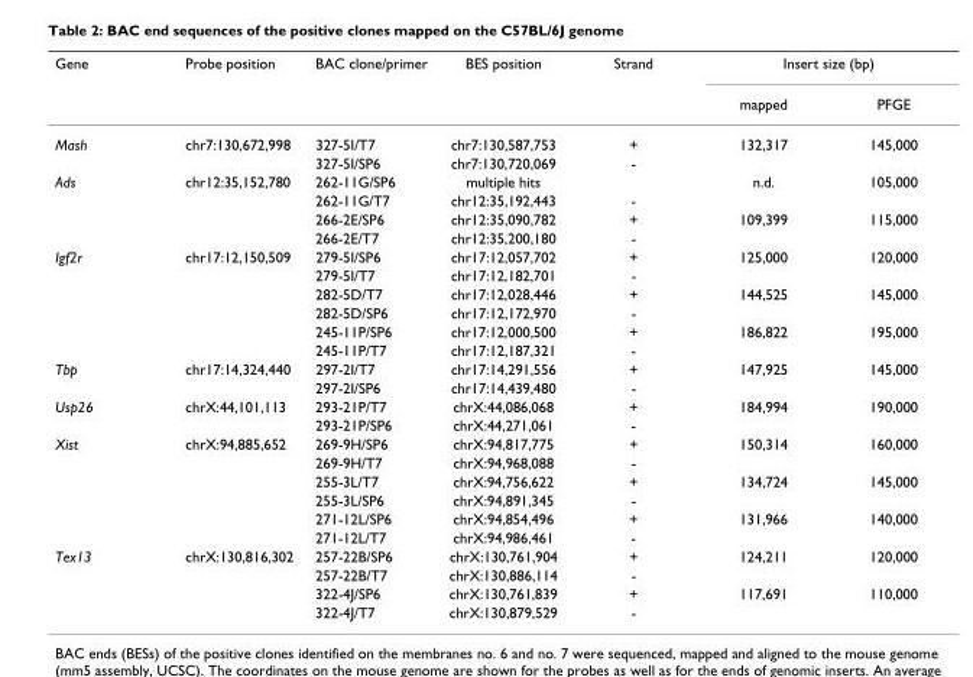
<table><thead><tr><td rowspan="2">Gene</td><td rowspan="2">Probe position</td><td rowspan="2">BAC clone/primer</td><td rowspan="2">BES position</td><td rowspan="2">Strand</td><td colspan="2">Insert size (bp)</td></tr><tr><td>mapped</td><td>PFGE</td></tr></thead><tbody><tr><td rowspan="2">Mash</td><td>chr7:130,672,998</td><td>327-5I/T7</td><td>chr7:130,587,753</td><td>+</td><td>132,317</td><td>145,000</td></tr><tr><td></td><td>327-5I/SP6</td><td>chr7:130,720,069</td><td>-</td><td></td><td></td></tr><tr><td rowspan="4">Ads</td><td>chr12:35,152,780</td><td>262-11G/SP6</td><td>multiple hits</td><td></td><td>n.d.</td><td>105,000</td></tr><tr><td></td><td>262-11G/T7</td><td>chr12:35,192,443</td><td>-</td><td></td><td></td></tr><tr><td></td><td>266-2E/SP6</td><td>chr12:35,090,782</td><td>+</td><td>109,399</td><td>115,000</td></tr><tr><td></td><td>266-2E/T7</td><td>chr12:35,200,180</td><td>-</td><td></td><td></td></tr><tr><td rowspan="6">Igf2r</td><td>chr17:12,150,509</td><td>279-5I/SP6</td><td>chr17:12,057,702</td><td>+</td><td>125,000</td><td>120,000</td></tr><tr><td></td><td>279-5I/T7</td><td>chr17:12,182,701</td><td>-</td><td></td><td></td></tr><tr><td></td><td>282-5D/T7</td><td>chr17:12,028,446</td><td>+</td><td>144,525</td><td>145,000</td></tr><tr><td></td><td>282-5D/SP6</td><td>chr17:12,172,970</td><td>-</td><td></td><td></td></tr><tr><td></td><td>245-11P/SP6</td><td>chr17:12,000,500</td><td>+</td><td>186,822</td><td>195,000</td></tr><tr><td></td><td>245-11P/T7</td><td>chr17:12,187,321</td><td>-</td><td></td><td></td></tr><tr><td rowspan="2">Tbp</td><td>chr17:14,324,440</td><td>297-2I/T7</td><td>chr17:14,291,556</td><td>+</td><td>147,925</td><td>145,000</td></tr><tr><td></td><td>297-2I/SP6</td><td>chr17:14,439,480</td><td>-</td><td></td><td></td></tr><tr><td rowspan="2">Usp26</td><td>chrX:44,101,113</td><td>293-21P/T7</td><td>chrX:44,086,068</td><td>+</td><td>184,994</td><td>190,000</td></tr><tr><td></td><td>293-21P/SP6</td><td>chrX:44,271,061</td><td>-</td><td></td><td></td></tr><tr><td rowspan="6">Xist</td><td>chrX:94,885,652</td><td>269-9H/SP6</td><td>chrX:94,817,775</td><td>+</td><td>150,314</td><td>160,000</td></tr><tr><td></td><td>269-9H/T7</td><td>chrX:94,968,088</td><td>-</td><td></td><td></td></tr><tr><td></td><td>255-3L/T7</td><td>chrX:94,756,622</td><td>+</td><td>134,724</td><td>145,000</td></tr><tr><td></td><td>255-3L/SP6</td><td>chrX:94,891,345</td><td>-</td><td></td><td></td></tr><tr><td></td><td>271-12L/SP6</td><td>chrX:94,854,496</td><td>+</td><td>131,966</td><td>140,000</td></tr><tr><td></td><td>271-12L/T7</td><td>chrX:94,986,461</td><td>-</td><td></td><td></td></tr><tr><td rowspan="4">Tex13</td><td>chrX:130,816,302</td><td>257-22B/SP6</td><td>chrX:130,761,904</td><td>+</td><td>124,211</td><td>120,000</td></tr><tr><td></td><td>257-22B/T7</td><td>chrX:130,886,114</td><td>-</td><td></td><td></td></tr><tr><td></td><td>322-4J/SP6</td><td>chrX:130,761,839</td><td>+</td><td>117,691</td><td>110,000</td></tr><tr><td></td><td>322-4J/T7</td><td>chrX:130,879,529</td><td>-</td><td></td><td></td></tr></tbody></table>